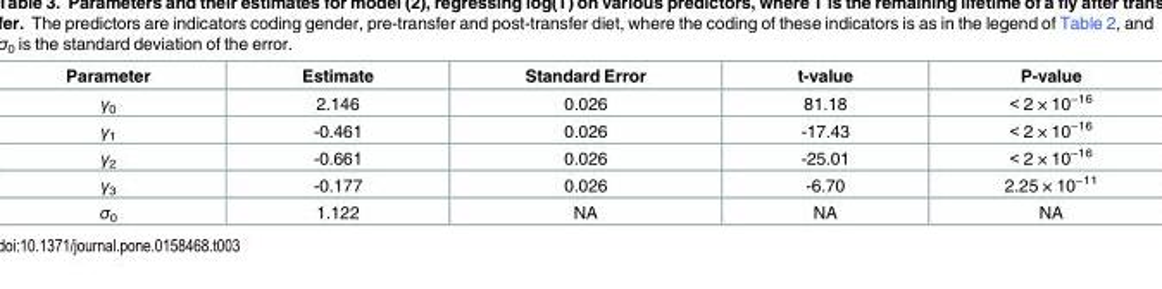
<table><thead><tr><td>Parameter</td><td>Estimate</td><td>Standard Error</td><td>t-value</td><td>P-value</td></tr></thead><tbody><tr><td>γ<sub>0</sub></td><td>2.146</td><td>0.026</td><td>81.18</td><td>&lt; 2 × 10<sup>−16</sup></td></tr><tr><td>γ<sub>1</sub></td><td>-0.461</td><td>0.026</td><td>-17.43</td><td>&lt; 2 × 10<sup>−16</sup></td></tr><tr><td>γ<sub>2</sub></td><td>-0.661</td><td>0.026</td><td>-25.01</td><td>&lt; 2 × 10<sup>−16</sup></td></tr><tr><td>γ<sub>3</sub></td><td>-0.177</td><td>0.026</td><td>-6.70</td><td>2.25 × 10<sup>−11</sup></td></tr><tr><td>σ<sub>0</sub></td><td>1.122</td><td>NA</td><td>NA</td><td>NA</td></tr></tbody></table>